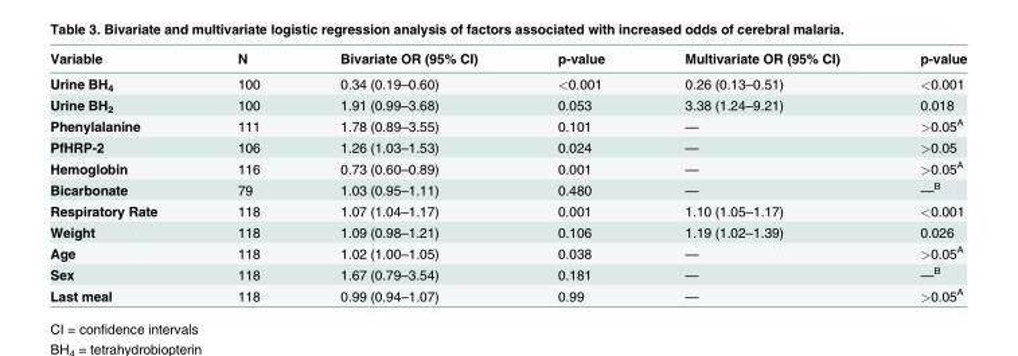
<table><thead><tr><td>Variable</td><td>N</td><td>Bivariate OR (95% CI)</td><td>p-value</td><td>Multivariate OR (95% CI)</td><td>p-value</td></tr></thead><tbody><tr><td>Urine BH<sub>4</sub></td><td>100</td><td>0.34 (0.19–0.60)</td><td>&lt;0.001</td><td>0.26 (0.13–0.51)</td><td>&lt;0.001</td></tr><tr><td>Urine BH<sub>2</sub></td><td>100</td><td>1.91 (0.99–3.68)</td><td>0.053</td><td>3.38 (1.24–9.21)</td><td>0.018</td></tr><tr><td>Phenylalanine</td><td>111</td><td>1.78 (0.89–3.55)</td><td>0.101</td><td>—</td><td>&gt;0.05<sup>A</sup></td></tr><tr><td>PfHRP-2</td><td>106</td><td>1.26 (1.03–1.53)</td><td>0.024</td><td>—</td><td>&gt;0.05</td></tr><tr><td>Hemoglobin</td><td>116</td><td>0.73 (0.60–0.89)</td><td>0.001</td><td>—</td><td>&gt;0.05<sup>A</sup></td></tr><tr><td>Bicarbonate</td><td>79</td><td>1.03 (0.95–1.11)</td><td>0.480</td><td>—</td><td>—<sup>B</sup></td></tr><tr><td>Respiratory Rate</td><td>118</td><td>1.07 (1.04–1.17)</td><td>0.001</td><td>1.10 (1.05–1.17)</td><td>&lt;0.001</td></tr><tr><td>Weight</td><td>118</td><td>1.09 (0.98–1.21)</td><td>0.106</td><td>1.19 (1.02–1.39)</td><td>0.026</td></tr><tr><td>Age</td><td>118</td><td>1.02 (1.00–1.05)</td><td>0.038</td><td>—</td><td>&gt;0.05<sup>A</sup></td></tr><tr><td>Sex</td><td>118</td><td>1.67 (0.79–3.54)</td><td>0.181</td><td>—</td><td>—<sup>B</sup></td></tr><tr><td>Last meal</td><td>118</td><td>0.99 (0.94–1.07)</td><td>0.99</td><td>—</td><td>&gt;0.05<sup>A</sup></td></tr></tbody></table>